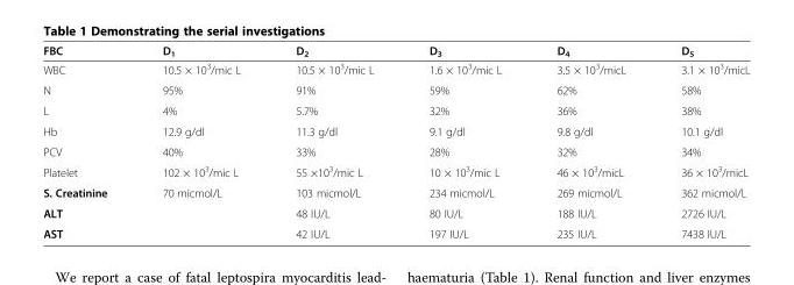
<table><thead><tr><td>FBC</td><td>D<sub>1</sub></td><td>D<sub>2</sub></td><td>D<sub>3</sub></td><td>D<sub>4</sub></td><td>D<sub>5</sub></td></tr></thead><tbody><tr><td>WBC</td><td>10.5 × 10<sup>3</sup>/mic L</td><td>10.5 × 10<sup>3</sup>/mic L</td><td>1.6 × 10<sup>3</sup>/mic L</td><td>3.5 × 10<sup>3</sup>/micL</td><td>3.1 × 10<sup>3</sup>/micL</td></tr><tr><td>N</td><td>95%</td><td>91%</td><td>59%</td><td>62%</td><td>58%</td></tr><tr><td>L</td><td>4%</td><td>5.7%</td><td>32%</td><td>36%</td><td>38%</td></tr><tr><td>Hb</td><td>12.9 g/dl</td><td>11.3 g/dl</td><td>9.1 g/dl</td><td>9.8 g/dl</td><td>10.1 g/dl</td></tr><tr><td>PCV</td><td>40%</td><td>33%</td><td>28%</td><td>32%</td><td>34%</td></tr><tr><td>Platelet</td><td>102 × 10<sup>3</sup>/mic L</td><td>55 ×10<sup>3</sup>/mic L</td><td>10 × 10<sup>3</sup>/mic L</td><td>46 × 10<sup>3</sup>/micL</td><td>36 × 10<sup>3</sup>/micL</td></tr><tr><td>S. Creatinine</td><td>70 micmol/L</td><td>103 micmol/L</td><td>234 micmol/L</td><td>269 micmol/L</td><td>362 micmol/L</td></tr><tr><td>ALT</td><td></td><td>48 IU/L</td><td>80 IU/L</td><td>188 IU/L</td><td>2726 IU/L</td></tr><tr><td>AST</td><td></td><td>42 IU/L</td><td>197 IU/L</td><td>235 IU/L</td><td>7438 IU/L</td></tr></tbody></table>